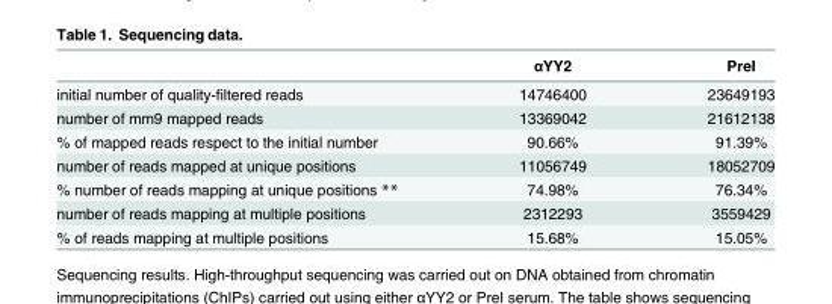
<table><thead><tr><td></td><td>αYY2</td><td>PreI</td></tr></thead><tbody><tr><td>initial number of quality-filtered reads</td><td>14746400</td><td>23649193</td></tr><tr><td>number of mm9 mapped reads</td><td>13369042</td><td>21612138</td></tr><tr><td>% of mapped reads respect to the initial number</td><td>90.66%</td><td>91.39%</td></tr><tr><td>number of reads mapped at unique positions</td><td>11056749</td><td>18052709</td></tr><tr><td>% number of reads mapping at unique positions **</td><td>74.98%</td><td>76.34%</td></tr><tr><td>number of reads mapping at multiple positions</td><td>2312293</td><td>3559429</td></tr><tr><td>% of reads mapping at multiple positions</td><td>15.68%</td><td>15.05%</td></tr></tbody></table>